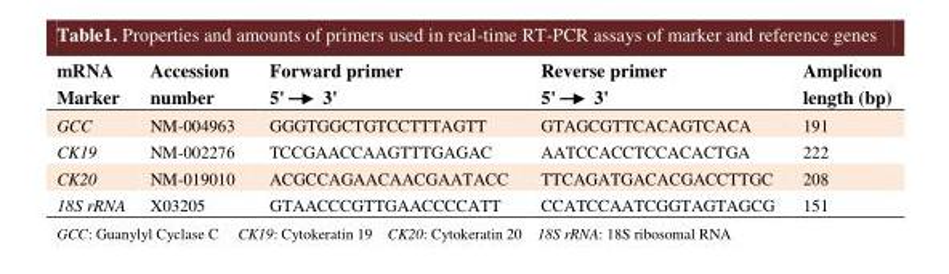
<table><thead><tr><td>mRNA Marker</td><td>Accession number</td><td>Forward primer 5&#x27; 3&#x27;</td><td>Reverse primer 5&#x27; 3&#x27;</td><td>Amplicon length (bp)</td></tr></thead><tbody><tr><td>GCC</td><td>NM-004963</td><td>GGGTGGCTGTCCTTTAGTT</td><td>GTAGCGTTCACAGTCACA</td><td>191</td></tr><tr><td>CK19</td><td>NM-002276</td><td>TCCGAACCAAGTTTGAGAC</td><td>AATCCACCTCCACACTGA</td><td>222</td></tr><tr><td>CK20</td><td>NM-019010</td><td>ACGCCAGAACAACGAATACC</td><td>TTCAGATGACACGACCTTGC</td><td>208</td></tr><tr><td>18S rRNA</td><td>X03205</td><td>GTAACCCGTTGAACCCCATT</td><td>CCATCCAATCGGTAGTAGCG</td><td>151</td></tr></tbody></table>